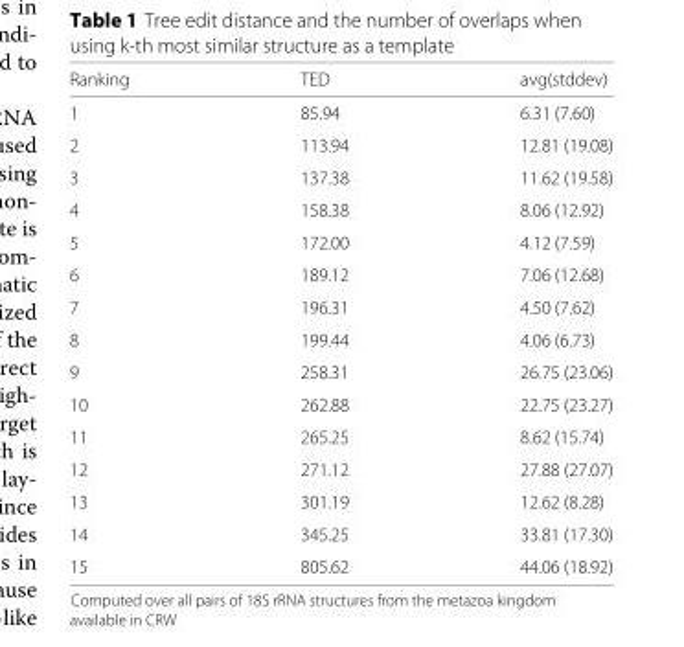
<table><thead><tr><td>Ranking</td><td>TED</td><td>avg(stddev)</td></tr></thead><tbody><tr><td>1</td><td>85.94</td><td>6.31 (7.60)</td></tr><tr><td>2</td><td>113.94</td><td>12.81 (19.08)</td></tr><tr><td>3</td><td>137.38</td><td>11.62 (19.58)</td></tr><tr><td>4</td><td>158.38</td><td>8.06 (12.92)</td></tr><tr><td>5</td><td>172.00</td><td>4.12 (7.59)</td></tr><tr><td>6</td><td>189.12</td><td>7.06 (12.68)</td></tr><tr><td>7</td><td>196.31</td><td>4.50 (7.62)</td></tr><tr><td>8</td><td>199.44</td><td>4.06 (6.73)</td></tr><tr><td>9</td><td>258.31</td><td>26.75 (23.06)</td></tr><tr><td>10</td><td>262.88</td><td>22.75 (23.27)</td></tr><tr><td>11</td><td>265.25</td><td>8.62 (15.74)</td></tr><tr><td>12</td><td>271.12</td><td>27.88 (27.07)</td></tr><tr><td>13</td><td>301.19</td><td>12.62 (8.28)</td></tr><tr><td>14</td><td>345.25</td><td>33.81 (17.30)</td></tr><tr><td>15</td><td>805.62</td><td>44.06 (18.92)</td></tr></tbody></table>